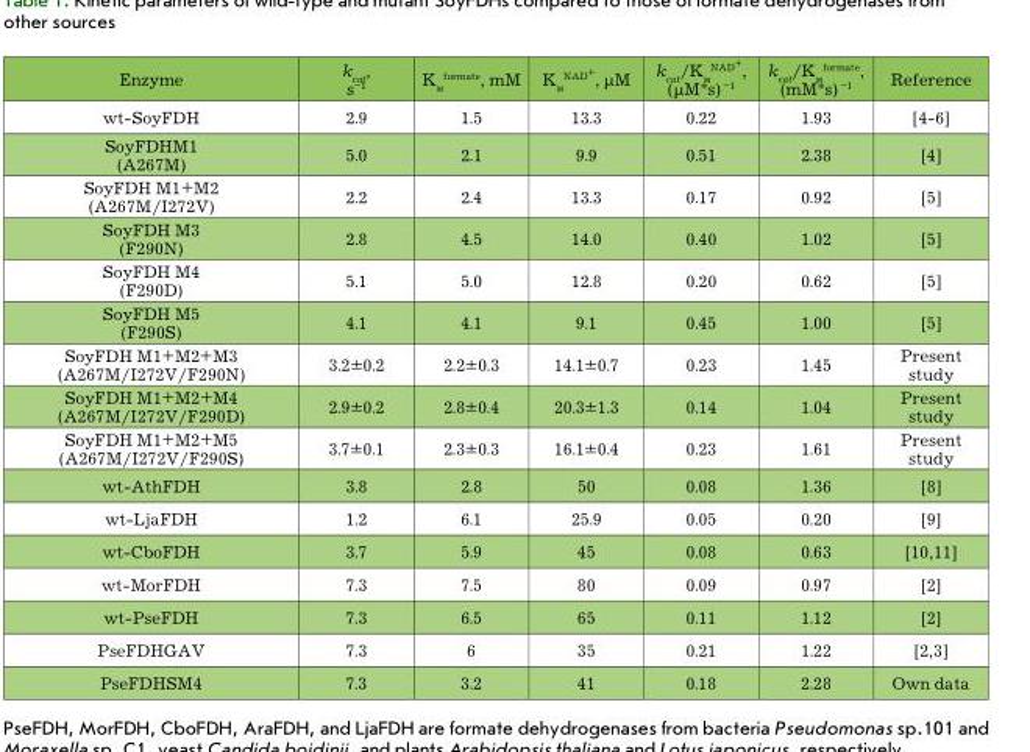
<table><thead><tr><td>Enzyme</td><td>k<sub>cat</sub>, s<sup>–1</sup></td><td>Kм formate, mM</td><td>Kм NAD+, µM</td><td>kcat/Kм NAD+, (µM*s) –1</td><td>kcat/Kм formate, (mM*s) –1</td><td>Reference</td></tr></thead><tbody><tr><td>wt-SoyFDH</td><td>2.9</td><td>1.5</td><td>13.3</td><td>0.22</td><td>1.93</td><td>[4-6]</td></tr><tr><td>SoyFDHM1 (A267M)</td><td>5.0</td><td>2.1</td><td>9.9</td><td>0.51</td><td>2.38</td><td>[4]</td></tr><tr><td>SoyFDH M1+M2 (A267M/I272V)</td><td>2.2</td><td>2.4</td><td>13.3</td><td>0.17</td><td>0.92</td><td>[5]</td></tr><tr><td>SoyFDH M3 (F290N)</td><td>2.8</td><td>4.5</td><td>14.0</td><td>0.40</td><td>1.02</td><td>[5]</td></tr><tr><td>SoyFDH M4 (F290D)</td><td>5.1</td><td>5.0</td><td>12.8</td><td>0.20</td><td>0.62</td><td>[5]</td></tr><tr><td>SoyFDH M5 (F290S)</td><td>4.1</td><td>4.1</td><td>9.1</td><td>0.45</td><td>1.00</td><td>[5]</td></tr><tr><td>SoyFDH M1+M2+M3 (A267M/I272V/F290N)</td><td>3.2±0.2</td><td>2.2±0.3</td><td>14.1±0.7</td><td>0.23</td><td>1.45</td><td>Present study</td></tr><tr><td>SoyFDH M1+M2+M4 (A267M/I272V/F290D)</td><td>2.9±0.2</td><td>2.8±0.4</td><td>20.3±1.3</td><td>0.14</td><td>1.04</td><td>Present study</td></tr><tr><td>SoyFDH M1+M2+M5 (A267M/I272V/F290S)</td><td>3.7±0.1</td><td>2.3±0.3</td><td>16.1±0.4</td><td>0.23</td><td>1.61</td><td>Present study</td></tr><tr><td>wt-AthFDH</td><td>3.8</td><td>2.8</td><td>50</td><td>0.08</td><td>1.36</td><td>[8]</td></tr><tr><td>wt-LjaFDH</td><td>1.2</td><td>6.1</td><td>25.9</td><td>0.05</td><td>0.20</td><td>[9]</td></tr><tr><td>wt-CboFDH</td><td>3.7</td><td>5.9</td><td>45</td><td>0.08</td><td>0.63</td><td>[10,11]</td></tr><tr><td>wt-MorFDH</td><td>7.3</td><td>7.5</td><td>80</td><td>0.09</td><td>0.97</td><td>[2]</td></tr><tr><td>wt-PseFDH</td><td>7.3</td><td>6.5</td><td>65</td><td>0.11</td><td>1.12</td><td>[2]</td></tr><tr><td>PseFDHGAV</td><td>7.3</td><td>6</td><td>35</td><td>0.21</td><td>1.22</td><td>[2,3]</td></tr><tr><td>PseFDHSM4</td><td>7.3</td><td>3.2</td><td>41</td><td>0.18</td><td>2.28</td><td>Own data</td></tr></tbody></table>